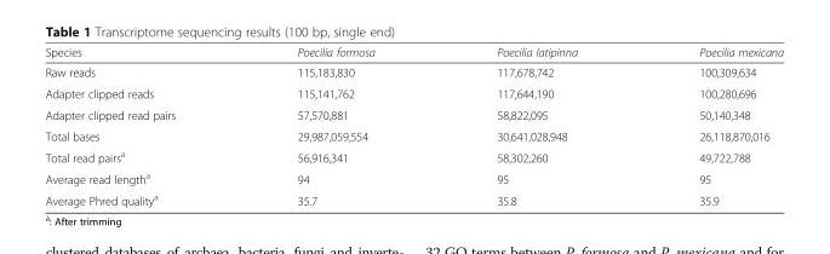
<table><thead><tr><td>Species</td><td>Poecilia formosa</td><td>Poecilia latipinna</td><td>Poecilia mexicana</td></tr></thead><tbody><tr><td>Raw reads</td><td>115,183,830</td><td>117,678,742</td><td>100,309,634</td></tr><tr><td>Adapter clipped reads</td><td>115,141,762</td><td>117,644,190</td><td>100,280,696</td></tr><tr><td>Adapter clipped read pairs</td><td>57,570,881</td><td>58,822,095</td><td>50,140,348</td></tr><tr><td>Total bases</td><td>29,987,059,554</td><td>30,641,028,948</td><td>26,118,870,016</td></tr><tr><td>Total read pairs<sup>a</sup></td><td>56,916,341</td><td>58,302,260</td><td>49,722,788</td></tr><tr><td>Average read length<sup>a</sup></td><td>94</td><td>95</td><td>95</td></tr><tr><td>Average Phred quality<sup>a</sup></td><td>35.7</td><td>35.8</td><td>35.9</td></tr></tbody></table>